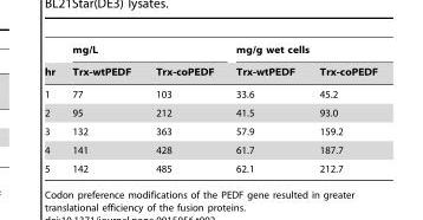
<table><thead><tr><td rowspan="2">hr</td><td colspan="2">mg/L</td><td colspan="2">mg/g wet cells</td></tr><tr><td>Trx-wtPEDF</td><td>Trx-coPEDF</td><td>Trx-wtPEDF</td><td>Trx-coPEDF</td></tr></thead><tbody><tr><td>1</td><td>77</td><td>103</td><td>33.6</td><td>45.2</td></tr><tr><td>2</td><td>95</td><td>212</td><td>41.5</td><td>93.0</td></tr><tr><td>3</td><td>132</td><td>363</td><td>57.9</td><td>159.2</td></tr><tr><td>4</td><td>141</td><td>428</td><td>61.7</td><td>187.7</td></tr><tr><td>5</td><td>142</td><td>485</td><td>62.1</td><td>212.7</td></tr></tbody></table>